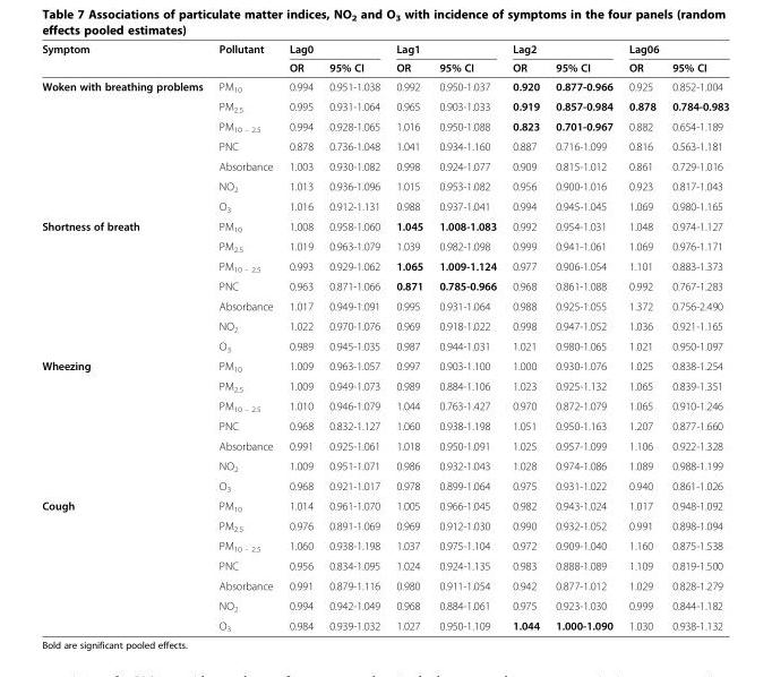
<table><thead><tr><td rowspan="2">Symptom</td><td rowspan="2">Pollutant</td><td colspan="2">Lag0</td><td colspan="2">Lag1</td><td colspan="2">Lag2</td><td colspan="2">Lag06</td></tr><tr><td>OR</td><td>95% CI</td><td>OR</td><td>95% CI</td><td>OR</td><td>95% CI</td><td>OR</td><td>95% CI</td></tr></thead><tbody><tr><td rowspan="7">Woken with breathing problems</td><td>PM<sub>10</sub></td><td>0.994</td><td>0.951-1.038</td><td>0.992</td><td>0.950-1.037</td><td>0.920</td><td>0.877-0.966</td><td>0.925</td><td>0.852-1.004</td></tr><tr><td>PM<sub>2.5</sub></td><td>0.995</td><td>0.931-1.064</td><td>0.965</td><td>0.903-1.033</td><td>0.919</td><td>0.857-0.984</td><td>0.878</td><td>0.784-0.983</td></tr><tr><td>PM<sub>10 - 2.5</sub></td><td>0.994</td><td>0.928-1.065</td><td>1.016</td><td>0.950-1.088</td><td>0.823</td><td>0.701-0.967</td><td>0.882</td><td>0.654-1.189</td></tr><tr><td>PNC</td><td>0.878</td><td>0.736-1.048</td><td>1.041</td><td>0.934-1.160</td><td>0.887</td><td>0.716-1.099</td><td>0.816</td><td>0.563-1.181</td></tr><tr><td>Absorbance</td><td>1.003</td><td>0.930-1.082</td><td>0.998</td><td>0.924-1.077</td><td>0.909</td><td>0.815-1.012</td><td>0.861</td><td>0.729-1.016</td></tr><tr><td>NO<sub>2</sub></td><td>1.013</td><td>0.936-1.096</td><td>1.015</td><td>0.953-1.082</td><td>0.956</td><td>0.900-1.016</td><td>0.923</td><td>0.817-1.043</td></tr><tr><td>O<sub>3</sub></td><td>1.016</td><td>0.912-1.131</td><td>0.988</td><td>0.937-1.041</td><td>0.994</td><td>0.945-1.045</td><td>1.069</td><td>0.980-1.165</td></tr><tr><td rowspan="7">Shortness of breath</td><td>PM<sub>10</sub></td><td>1.008</td><td>0.958-1.060</td><td>1.045</td><td>1.008-1.083</td><td>0.992</td><td>0.954-1.031</td><td>1.048</td><td>0.974-1.127</td></tr><tr><td>PM<sub>2.5</sub></td><td>1.019</td><td>0.963-1.079</td><td>1.039</td><td>0.982-1.098</td><td>0.999</td><td>0.941-1.061</td><td>1.069</td><td>0.976-1.171</td></tr><tr><td>PM<sub>10 - 2.5</sub></td><td>0.993</td><td>0.929-1.062</td><td>1.065</td><td>1.009-1.124</td><td>0.977</td><td>0.906-1.054</td><td>1.101</td><td>0.883-1.373</td></tr><tr><td>PNC</td><td>0.963</td><td>0.871-1.066</td><td>0.871</td><td>0.785-0.966</td><td>0.968</td><td>0.861-1.088</td><td>0.992</td><td>0.767-1.283</td></tr><tr><td>Absorbance</td><td>1.017</td><td>0.949-1.091</td><td>0.995</td><td>0.931-1.064</td><td>0.988</td><td>0.925-1.055</td><td>1.372</td><td>0.756-2.490</td></tr><tr><td>NO<sub>2</sub></td><td>1.022</td><td>0.970-1.076</td><td>0.969</td><td>0.918-1.022</td><td>0.998</td><td>0.947-1.052</td><td>1.036</td><td>0.921-1.165</td></tr><tr><td>O<sub>3</sub></td><td>0.989</td><td>0.945-1.035</td><td>0.987</td><td>0.944-1.031</td><td>1.021</td><td>0.980-1.065</td><td>1.021</td><td>0.950-1.097</td></tr><tr><td rowspan="7">Wheezing</td><td>PM<sub>10</sub></td><td>1.009</td><td>0.963-1.057</td><td>0.997</td><td>0.903-1.100</td><td>1.000</td><td>0.930-1.076</td><td>1.025</td><td>0.838-1.254</td></tr><tr><td>PM<sub>2.5</sub></td><td>1.009</td><td>0.949-1.073</td><td>0.989</td><td>0.884-1.106</td><td>1.023</td><td>0.925-1.132</td><td>1.065</td><td>0.839-1.351</td></tr><tr><td>PM<sub>10 - 2.5</sub></td><td>1.010</td><td>0.946-1.079</td><td>1.044</td><td>0.763-1.427</td><td>0.970</td><td>0.872-1.079</td><td>1.065</td><td>0.910-1.246</td></tr><tr><td>PNC</td><td>0.968</td><td>0.832-1.127</td><td>1.060</td><td>0.938-1.198</td><td>1.051</td><td>0.950-1.163</td><td>1.207</td><td>0.877-1.660</td></tr><tr><td>Absorbance</td><td>0.991</td><td>0.925-1.061</td><td>1.018</td><td>0.950-1.091</td><td>1.025</td><td>0.957-1.099</td><td>1.106</td><td>0.922-1.328</td></tr><tr><td>NO<sub>2</sub></td><td>1.009</td><td>0.951-1.071</td><td>0.986</td><td>0.932-1.043</td><td>1.028</td><td>0.974-1.086</td><td>1.089</td><td>0.988-1.199</td></tr><tr><td>O<sub>3</sub></td><td>0.968</td><td>0.921-1.017</td><td>0.978</td><td>0.899-1.064</td><td>0.975</td><td>0.931-1.022</td><td>0.940</td><td>0.861-1.026</td></tr><tr><td rowspan="7">Cough</td><td>PM<sub>10</sub></td><td>1.014</td><td>0.961-1.070</td><td>1.005</td><td>0.966-1.045</td><td>0.982</td><td>0.943-1.024</td><td>1.017</td><td>0.948-1.092</td></tr><tr><td>PM<sub>2.5</sub></td><td>0.976</td><td>0.891-1.069</td><td>0.969</td><td>0.912-1.030</td><td>0.990</td><td>0.932-1.052</td><td>0.991</td><td>0.898-1.094</td></tr><tr><td>PM<sub>10 - 2.5</sub></td><td>1.060</td><td>0.938-1.198</td><td>1.037</td><td>0.975-1.104</td><td>0.972</td><td>0.909-1.040</td><td>1.160</td><td>0.875-1.538</td></tr><tr><td>PNC</td><td>0.956</td><td>0.834-1.095</td><td>1.024</td><td>0.924-1.135</td><td>0.983</td><td>0.888-1.089</td><td>1.109</td><td>0.819-1.500</td></tr><tr><td>Absorbance</td><td>0.991</td><td>0.879-1.116</td><td>0.980</td><td>0.911-1.054</td><td>0.942</td><td>0.877-1.012</td><td>1.029</td><td>0.828-1.279</td></tr><tr><td>NO<sub>2</sub></td><td>0.994</td><td>0.942-1.049</td><td>0.968</td><td>0.884-1.061</td><td>0.975</td><td>0.923-1.030</td><td>0.999</td><td>0.844-1.182</td></tr><tr><td>O<sub>3</sub></td><td>0.984</td><td>0.939-1.032</td><td>1.027</td><td>0.950-1.109</td><td>1.044</td><td>1.000-1.090</td><td>1.030</td><td>0.938-1.132</td></tr></tbody></table>